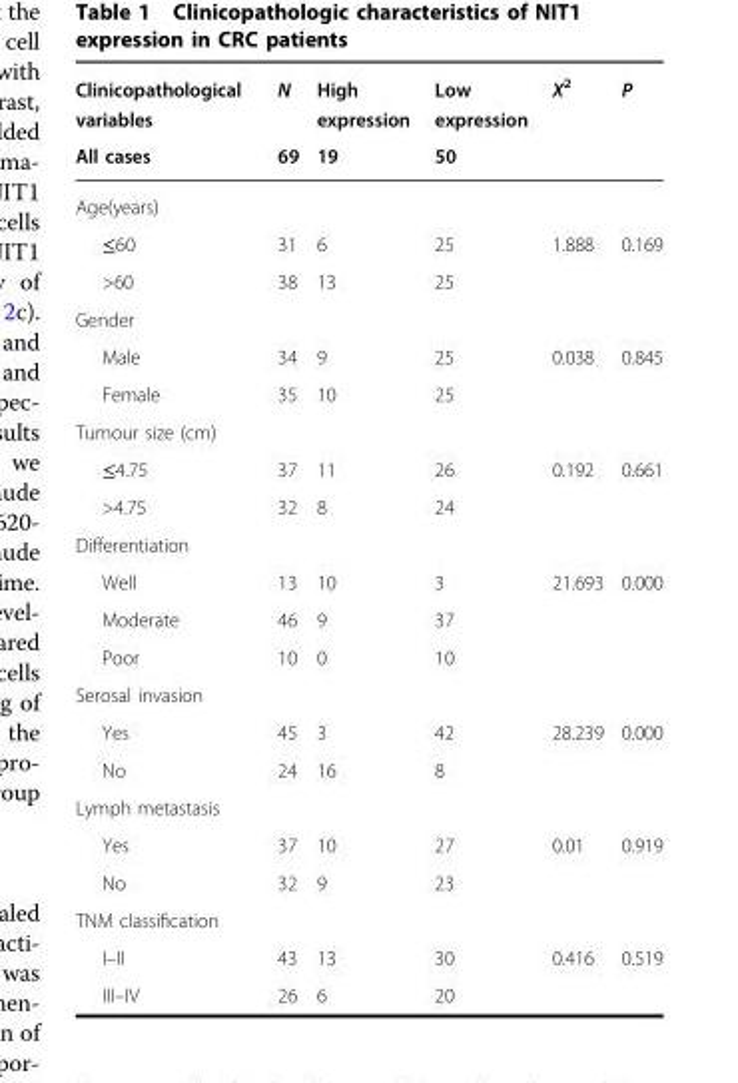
<table><thead><tr><td rowspan="2">Clinicopathological variables All cases</td><td rowspan="2">N 69</td><td rowspan="2">High expression 19</td><td rowspan="2">Low expression 50</td><td rowspan="2">X<sup>2</sup></td><td rowspan="2">P</td></tr><tr></tr></thead><tbody><tr><td colspan="6">Age(years)</td></tr><tr><td>≤60</td><td>31</td><td>6</td><td>25</td><td>1.888</td><td>0.169</td></tr><tr><td>&gt;60</td><td>38</td><td>13</td><td>25</td><td></td><td></td></tr><tr><td colspan="6">Gender</td></tr><tr><td>Male</td><td>34</td><td>9</td><td>25</td><td>0.038</td><td>0.845</td></tr><tr><td>Female</td><td>35</td><td>10</td><td>25</td><td></td><td></td></tr><tr><td colspan="6">Tumour size (cm)</td></tr><tr><td>≤4.75</td><td>37</td><td>11</td><td>26</td><td>0.192</td><td>0.661</td></tr><tr><td>&gt;4.75</td><td>32</td><td>8</td><td>24</td><td></td><td></td></tr><tr><td colspan="6">Differentiation</td></tr><tr><td>Well</td><td>13</td><td>10</td><td>3</td><td>21.693</td><td>0.000</td></tr><tr><td>Moderate</td><td>46</td><td>9</td><td>37</td><td></td><td></td></tr><tr><td>Poor</td><td>10</td><td>0</td><td>10</td><td></td><td></td></tr><tr><td colspan="6">Serosal invasion</td></tr><tr><td>Yes</td><td>45</td><td>3</td><td>42</td><td>28.239</td><td>0.000</td></tr><tr><td>No</td><td>24</td><td>16</td><td>8</td><td></td><td></td></tr><tr><td colspan="6">Lymph metastasis</td></tr><tr><td>Yes</td><td>37</td><td>10</td><td>27</td><td>0.01</td><td>0.919</td></tr><tr><td>No</td><td>32</td><td>9</td><td>23</td><td></td><td></td></tr><tr><td colspan="6">TNM classification</td></tr><tr><td>I–II</td><td>43</td><td>13</td><td>30</td><td>0.416</td><td>0.519</td></tr><tr><td>III–IV</td><td>26</td><td>6</td><td>20</td><td></td><td></td></tr></tbody></table>